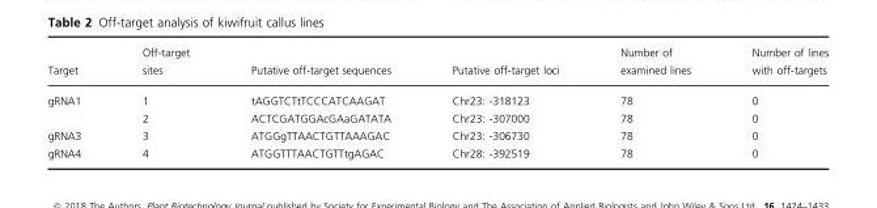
<table><thead><tr><td>Target</td><td>Off-target sites</td><td>Putative off-target sequences</td><td>Putative off-target loci</td><td>Number of examined lines</td><td>Number of lines with off-targets</td></tr></thead><tbody><tr><td rowspan="2">gRNA1</td><td>1</td><td>tAGGTCTtTCCCATCAAGAT</td><td>Chr23: -318123</td><td>78</td><td>0</td></tr><tr><td>2</td><td>ACTCGATGGAcGAaGATATA</td><td>Chr23: -307000</td><td>78</td><td>0</td></tr><tr><td>gRNA3</td><td>3</td><td>ATGGgTTAACTGTTAAAGAC</td><td>Chr23: -306730</td><td>78</td><td>0</td></tr><tr><td>gRNA4</td><td>4</td><td>ATGGTTTAACTGTTtgAGAC</td><td>Chr28: -392519</td><td>78</td><td>0</td></tr></tbody></table>